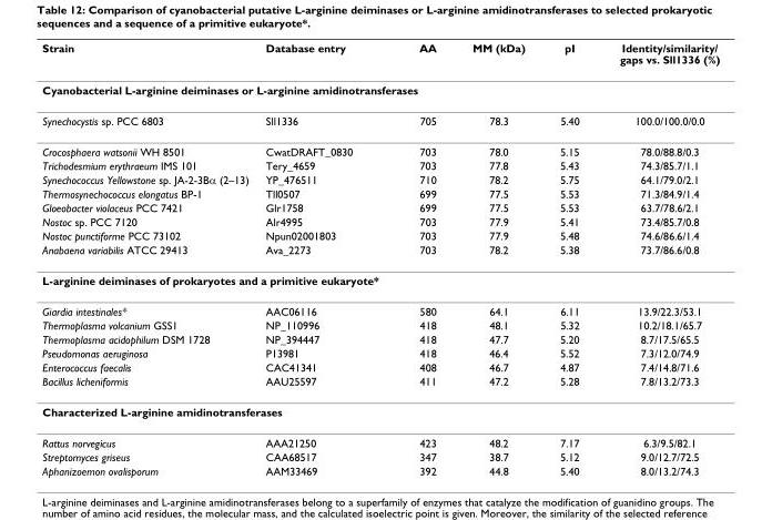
<table><thead><tr><td>Strain</td><td>Database entry</td><td>AA</td><td>MM (kDa)</td><td>pI</td><td>Identity/similarity/ gaps vs. Sll1336 (%)</td></tr></thead><tbody><tr><td colspan="6">Cyanobacterial L-arginine deiminases or L-arginine amidinotransferases</td></tr><tr><td>Synechocystis sp. PCC 6803</td><td>Sll1336</td><td>705</td><td>78.3</td><td>5.40</td><td>100.0/100.0/0.0</td></tr><tr><td>Crocosphaera watsonii WH 8501</td><td>CwatDRAFT_0830</td><td>703</td><td>78.0</td><td>5.15</td><td>78.0/88.8/0.3</td></tr><tr><td>Trichodesmium erythraeum IMS 101</td><td>Tery_4659</td><td>703</td><td>77.8</td><td>5.43</td><td>74.3/85.7/1.1</td></tr><tr><td>Synechococcus Yellowstone sp. JA-2-3Bα (2–13)</td><td>YP_476511</td><td>710</td><td>78.2</td><td>5.75</td><td>64.1/79.0/2.1</td></tr><tr><td>Thermosynechococcus elongatus BP-1</td><td>Tll0507</td><td>699</td><td>77.5</td><td>5.53</td><td>71.3/84.9/1.4</td></tr><tr><td>Gloeobacter violaceus PCC 7421</td><td>Glr1758</td><td>699</td><td>77.5</td><td>5.53</td><td>63.7/78.6/2.1</td></tr><tr><td>Nostoc sp. PCC 7120</td><td>Alr4995</td><td>703</td><td>77.9</td><td>5.41</td><td>73.4/85.7/0.8</td></tr><tr><td>Nostoc punctiforme PCC 73102</td><td>Npun02001803</td><td>703</td><td>77.9</td><td>5.48</td><td>74.6/86.6/1.4</td></tr><tr><td>Anabaena variabilis ATCC 29413</td><td>Ava_2273</td><td>703</td><td>78.2</td><td>5.38</td><td>73.7/86.6/0.8</td></tr><tr><td colspan="6">L-arginine deiminases of prokaryotes and a primitive eukaryote*</td></tr><tr><td>Giardia intestinales*</td><td>AAC06116</td><td>580</td><td>64.1</td><td>6.11</td><td>13.9/22.3/53.1</td></tr><tr><td>Thermoplasma volcanium GSS1</td><td>NP_110996</td><td>418</td><td>48.1</td><td>5.32</td><td>10.2/18.1/65.7</td></tr><tr><td>Thermoplasma acidophilum DSM 1728</td><td>NP_394447</td><td>418</td><td>47.7</td><td>5.20</td><td>8.7/17.5/65.5</td></tr><tr><td>Pseudomonas aeruginosa</td><td>P13981</td><td>418</td><td>46.4</td><td>5.52</td><td>7.3/12.0/74.9</td></tr><tr><td>Enterococcus faecalis</td><td>CAC41341</td><td>408</td><td>46.7</td><td>4.87</td><td>7.4/14.8/71.6</td></tr><tr><td>Bacillus licheniformis</td><td>AAU25597</td><td>411</td><td>47.2</td><td>5.28</td><td>7.8/13.2/73.3</td></tr><tr><td colspan="6">Characterized L-arginine amidinotransferases</td></tr><tr><td>Rattus norvegicus</td><td>AAA21250</td><td>423</td><td>48.2</td><td>7.17</td><td>6.3/9.5/82.1</td></tr><tr><td>Streptomyces griseus</td><td>CAA68517</td><td>347</td><td>38.7</td><td>5.12</td><td>9.0/12.7/72.5</td></tr><tr><td>Aphanizoemon ovalisporum</td><td>AAM33469</td><td>392</td><td>44.8</td><td>5.40</td><td>8.0/13.2/74.3</td></tr></tbody></table>